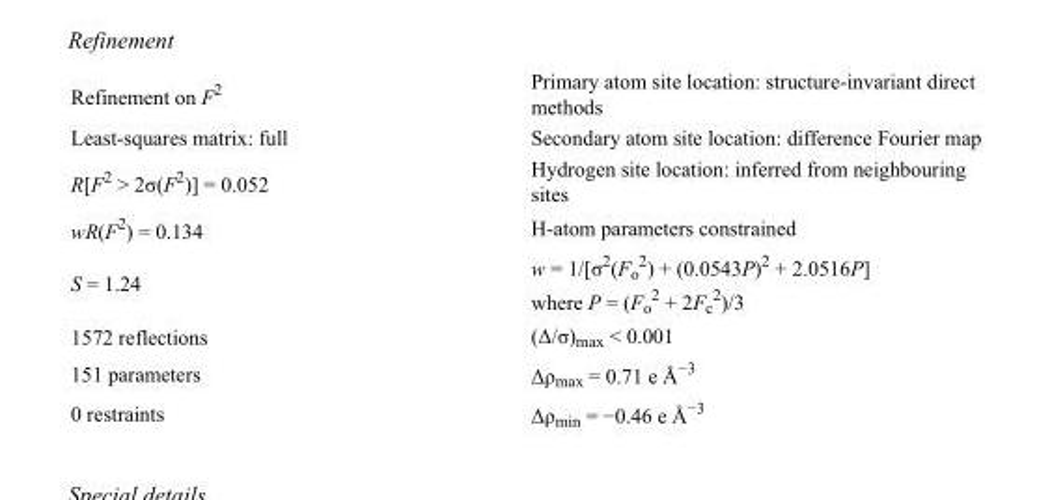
<table><tbody><tr><td>Refinement on F<sup>2</sup></td><td>Primary atom site location: structure-invariant direct methods</td></tr><tr><td>Least-squares matrix: full</td><td>Secondary atom site location: difference Fourier map</td></tr><tr><td>R[F<sup>2</sup> &gt; 2σ(F<sup>2</sup>)] = 0.052</td><td>Hydrogen site location: inferred from neighbouring sites</td></tr><tr><td>wR(F<sup>2</sup>) = 0.134</td><td>H-atom parameters constrained</td></tr><tr><td>S = 1.24</td><td>w = 1/[σ<sup>2</sup>(F<sub>o</sub> <sup>2</sup>) + (0.0543P)<sup>2</sup> + 2.0516P] where P = (F<sub>o</sub> <sup>2</sup> + 2F<sub>c</sub> <sup>2</sup>)/3</td></tr><tr><td>1572 reflections</td><td>(Δ/σ)<sub>max</sub> &lt; 0.001</td></tr><tr><td>151 parameters</td><td>Δρ<sub>max</sub> = 0.71 e Å<sup>−3</sup></td></tr><tr><td>0 restraints</td><td>Δρ<sub>min</sub> = −0.46 e Å<sup>−3</sup></td></tr></tbody></table>